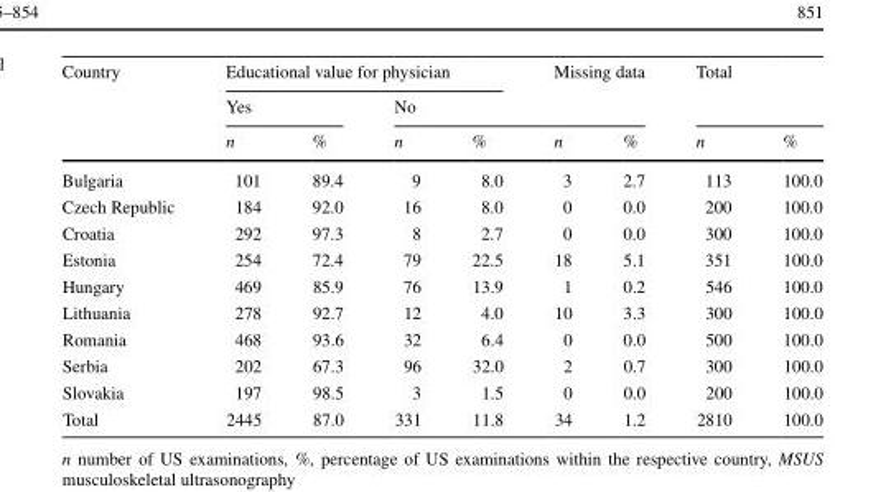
<table><thead><tr><td rowspan="3">Country</td><td colspan="4">Educational value for physician</td><td rowspan="2" colspan="2">Missing data</td><td rowspan="2" colspan="2">Total</td></tr><tr><td colspan="2">Yes</td><td colspan="2">No</td></tr><tr><td>n</td><td>%</td><td>n</td><td>%</td><td>n</td><td>%</td><td>n</td><td>%</td></tr></thead><tbody><tr><td>Bulgaria</td><td>101</td><td>89.4</td><td>9</td><td>8.0</td><td>3</td><td>2.7</td><td>113</td><td>100.0</td></tr><tr><td>Czech Republic</td><td>184</td><td>92.0</td><td>16</td><td>8.0</td><td>0</td><td>0.0</td><td>200</td><td>100.0</td></tr><tr><td>Croatia</td><td>292</td><td>97.3</td><td>8</td><td>2.7</td><td>0</td><td>0.0</td><td>300</td><td>100.0</td></tr><tr><td>Estonia</td><td>254</td><td>72.4</td><td>79</td><td>22.5</td><td>18</td><td>5.1</td><td>351</td><td>100.0</td></tr><tr><td>Hungary</td><td>469</td><td>85.9</td><td>76</td><td>13.9</td><td>1</td><td>0.2</td><td>546</td><td>100.0</td></tr><tr><td>Lithuania</td><td>278</td><td>92.7</td><td>12</td><td>4.0</td><td>10</td><td>3.3</td><td>300</td><td>100.0</td></tr><tr><td>Romania</td><td>468</td><td>93.6</td><td>32</td><td>6.4</td><td>0</td><td>0.0</td><td>500</td><td>100.0</td></tr><tr><td>Serbia</td><td>202</td><td>67.3</td><td>96</td><td>32.0</td><td>2</td><td>0.7</td><td>300</td><td>100.0</td></tr><tr><td>Slovakia</td><td>197</td><td>98.5</td><td>3</td><td>1.5</td><td>0</td><td>0.0</td><td>200</td><td>100.0</td></tr><tr><td>Total</td><td>2445</td><td>87.0</td><td>331</td><td>11.8</td><td>34</td><td>1.2</td><td>2810</td><td>100.0</td></tr></tbody></table>